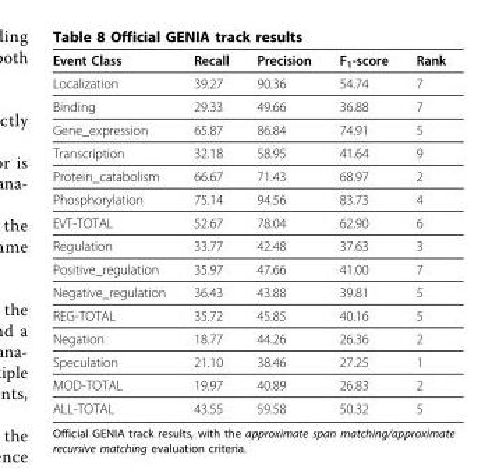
<table><thead><tr><td>Event Class</td><td>Recall</td><td>Precision</td><td>F<sub>1</sub>-score</td><td>Rank</td></tr></thead><tbody><tr><td>Localization</td><td>39.27</td><td>90.36</td><td>54.74</td><td>7</td></tr><tr><td>Binding</td><td>29.33</td><td>49.66</td><td>36.88</td><td>7</td></tr><tr><td>Gene_expression</td><td>65.87</td><td>86.84</td><td>74.91</td><td>5</td></tr><tr><td>Transcription</td><td>32.18</td><td>58.95</td><td>41.64</td><td>9</td></tr><tr><td>Protein_catabolism</td><td>66.67</td><td>71.43</td><td>68.97</td><td>2</td></tr><tr><td>Phosphorylation</td><td>75.14</td><td>94.56</td><td>83.73</td><td>4</td></tr><tr><td>EVT-TOTAL</td><td>52.67</td><td>78.04</td><td>62.90</td><td>6</td></tr><tr><td>Regulation</td><td>33.77</td><td>42.48</td><td>37.63</td><td>3</td></tr><tr><td>Positive_regulation</td><td>35.97</td><td>47.66</td><td>41.00</td><td>7</td></tr><tr><td>Negative_regulation</td><td>36.43</td><td>43.88</td><td>39.81</td><td>5</td></tr><tr><td>REG-TOTAL</td><td>35.72</td><td>45.85</td><td>40.16</td><td>5</td></tr><tr><td>Negation</td><td>18.77</td><td>44.26</td><td>26.36</td><td>2</td></tr><tr><td>Speculation</td><td>21.10</td><td>38.46</td><td>27.25</td><td>1</td></tr><tr><td>MOD-TOTAL</td><td>19.97</td><td>40.89</td><td>26.83</td><td>2</td></tr><tr><td>ALL-TOTAL</td><td>43.55</td><td>59.58</td><td>50.32</td><td>5</td></tr></tbody></table>